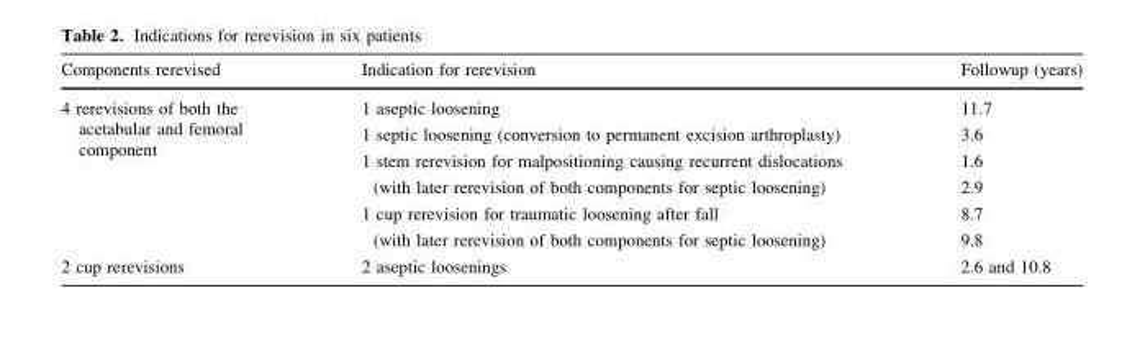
<table><thead><tr><td>Components rerevised</td><td>Indication for rerevision</td><td>Followup (years)</td></tr></thead><tbody><tr><td rowspan="6">4 rerevisions of both the acetabular and femoral component</td><td>1 aseptic loosening</td><td>11.7</td></tr><tr><td>1 septic loosening (conversion to permanent excision arthroplasty)</td><td>3.6</td></tr><tr><td>1 stem rerevision for malpositioning causing recurrent dislocations</td><td>1.6</td></tr><tr><td>(with later rerevision of both components for septic loosening)</td><td>2.9</td></tr><tr><td>1 cup rerevision for traumatic loosening after fall</td><td>8.7</td></tr><tr><td>(with later rerevision of both components for septic loosening)</td><td>9.8</td></tr><tr><td>2 cup rerevisions</td><td>2 aseptic loosenings</td><td>2.6 and 10.8</td></tr></tbody></table>